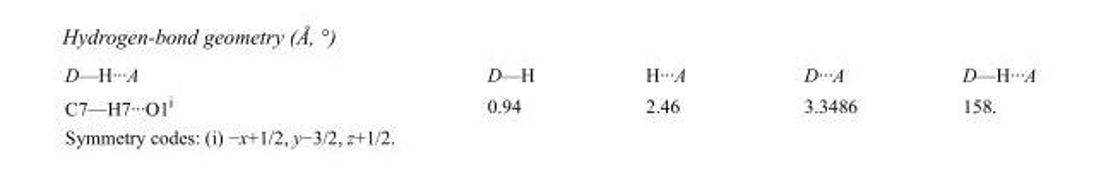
<table><tbody><tr><td>D—H···A</td><td>D—H</td><td>H···A</td><td>D···A</td><td>D—H···A</td></tr><tr><td>C7—H7···O1<sup>i</sup></td><td>0.94</td><td>2.46</td><td>3.3486</td><td>158.</td></tr></tbody></table>